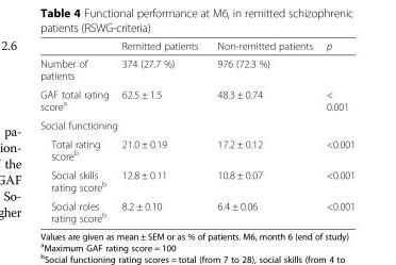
<table><thead><tr><td></td><td>Remitted patients</td><td>Non-remitted patients</td><td>p</td></tr></thead><tbody><tr><td>Number of patients</td><td>374 (27.7 %)</td><td>976 (72.3 %)</td><td></td></tr><tr><td>GAF total rating score<sup>a</sup></td><td>62.5 ± 1.5</td><td>48.3 ± 0.74</td><td>&lt; 0.001</td></tr><tr><td colspan="4">Social functioning</td></tr><tr><td>Total rating score<sup>b</sup></td><td>21.0 ± 0.19</td><td>17.2 ± 0.12</td><td>&lt;0.001</td></tr><tr><td>Social skills rating score<sup>b</sup></td><td>12.8 ± 0.11</td><td>10.8 ± 0.07</td><td>&lt;0.001</td></tr><tr><td>Social roles rating score<sup>b</sup></td><td>8.2 ± 0.10</td><td>6.4 ± 0.06</td><td>&lt;0.001</td></tr></tbody></table>